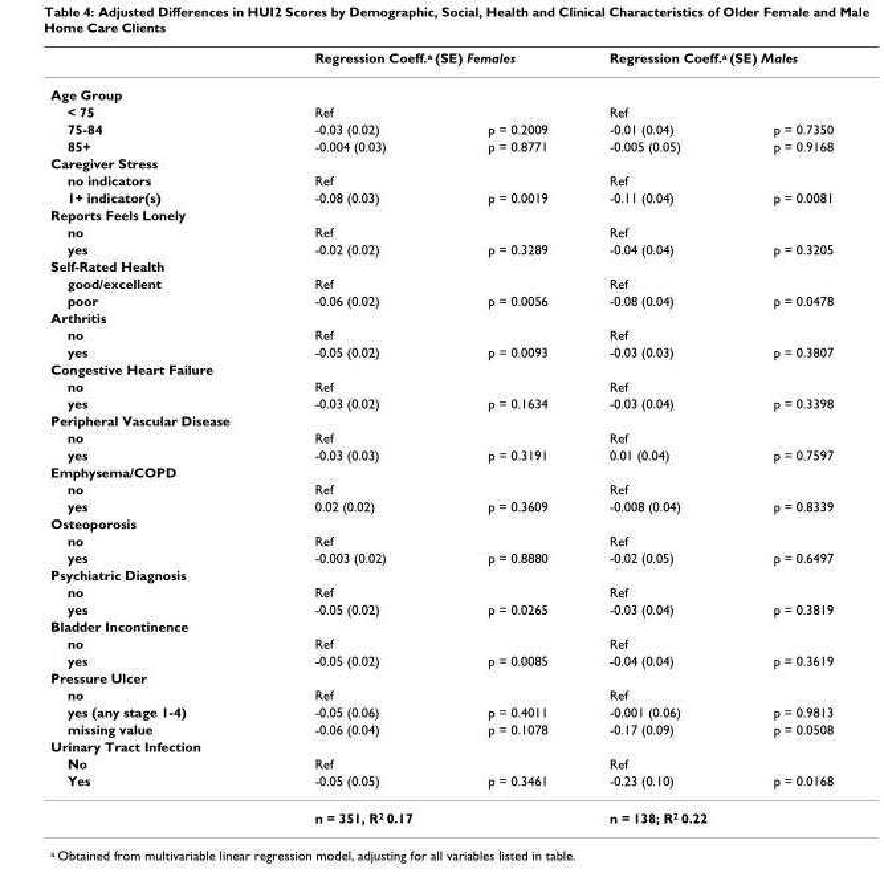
<table><thead><tr><td rowspan="2">Age Group</td><td colspan="2">Regression Coeff.<sup>a</sup> (SE) Females</td><td colspan="2">Regression Coeff.<sup>a</sup> (SE) Males</td></tr><tr><td></td><td></td><td></td><td></td></tr></thead><tbody><tr><td>&lt; 75</td><td>Ref</td><td></td><td>Ref</td><td></td></tr><tr><td>75-84</td><td>-0.03 (0.02)</td><td>p = 0.2009</td><td>-0.01 (0.04)</td><td>p = 0.7350</td></tr><tr><td>85+</td><td>-0.004 (0.03)</td><td>p = 0.8771</td><td>-0.005 (0.05)</td><td>p = 0.9168</td></tr><tr><td colspan="5">Caregiver Stress</td></tr><tr><td>no indicators</td><td>Ref</td><td></td><td>Ref</td><td></td></tr><tr><td>1+ indicator(s)</td><td>-0.08 (0.03)</td><td>p = 0.0019</td><td>-0.11 (0.04)</td><td>p = 0.0081</td></tr><tr><td colspan="5">Reports Feels Lonely</td></tr><tr><td>no</td><td>Ref</td><td></td><td>Ref</td><td></td></tr><tr><td>yes</td><td>-0.02 (0.02)</td><td>p = 0.3289</td><td>-0.04 (0.04)</td><td>p = 0.3205</td></tr><tr><td colspan="5">Self-Rated Health</td></tr><tr><td>good/excellent</td><td>Ref</td><td></td><td>Ref</td><td></td></tr><tr><td>poor</td><td>-0.06 (0.02)</td><td>p = 0.0056</td><td>-0.08 (0.04)</td><td>p = 0.0478</td></tr><tr><td colspan="5">Arthritis</td></tr><tr><td>no</td><td>Ref</td><td></td><td>Ref</td><td></td></tr><tr><td>yes</td><td>-0.05 (0.02)</td><td>p = 0.0093</td><td>-0.03 (0.03)</td><td>p = 0.3807</td></tr><tr><td colspan="5">Congestive Heart Failure</td></tr><tr><td>no</td><td>Ref</td><td></td><td>Ref</td><td></td></tr><tr><td>yes</td><td>-0.03 (0.02)</td><td>p = 0.1634</td><td>-0.03 (0.04)</td><td>p = 0.3398</td></tr><tr><td colspan="5">Peripheral Vascular Disease</td></tr><tr><td>no</td><td>Ref</td><td></td><td>Ref</td><td></td></tr><tr><td>yes</td><td>-0.03 (0.03)</td><td>p = 0.3191</td><td>0.01 (0.04)</td><td>p = 0.7597</td></tr><tr><td colspan="5">Emphysema/COPD</td></tr><tr><td>no</td><td>Ref</td><td></td><td>Ref</td><td></td></tr><tr><td>yes</td><td>0.02 (0.02)</td><td>p = 0.3609</td><td>-0.008 (0.04)</td><td>p = 0.8339</td></tr><tr><td colspan="5">Osteoporosis</td></tr><tr><td>no</td><td>Ref</td><td></td><td>Ref</td><td></td></tr><tr><td>yes</td><td>-0.003 (0.02)</td><td>p = 0.8880</td><td>-0.02 (0.05)</td><td>p = 0.6497</td></tr><tr><td colspan="5">Psychiatric Diagnosis</td></tr><tr><td>no</td><td>Ref</td><td></td><td>Ref</td><td></td></tr><tr><td>yes</td><td>-0.05 (0.02)</td><td>p = 0.0265</td><td>-0.03 (0.04)</td><td>p = 0.3819</td></tr><tr><td colspan="5">Bladder Incontinence</td></tr><tr><td>no</td><td>Ref</td><td></td><td>Ref</td><td></td></tr><tr><td>yes</td><td>-0.05 (0.02)</td><td>p = 0.0085</td><td>-0.04 (0.04)</td><td>p = 0.3619</td></tr><tr><td colspan="5">Pressure Ulcer</td></tr><tr><td>no</td><td>Ref</td><td></td><td>Ref</td><td></td></tr><tr><td>yes (any stage 1-4)</td><td>-0.05 (0.06)</td><td>p = 0.4011</td><td>-0.001 (0.06)</td><td>p = 0.9813</td></tr><tr><td>missing value</td><td>-0.06 (0.04)</td><td>p = 0.1078</td><td>-0.17 (0.09)</td><td>p = 0.0508</td></tr><tr><td colspan="5">Urinary Tract Infection</td></tr><tr><td>No</td><td>Ref</td><td></td><td>Ref</td><td></td></tr><tr><td rowspan="2">Yes</td><td>-0.05 (0.05)</td><td>p = 0.3461</td><td>-0.23 (0.10)</td><td>p = 0.0168</td></tr><tr><td>n = 351, R<sup>2</sup> 0.17</td><td></td><td>n = 138; R<sup>2</sup> 0.22</td><td></td></tr></tbody></table>